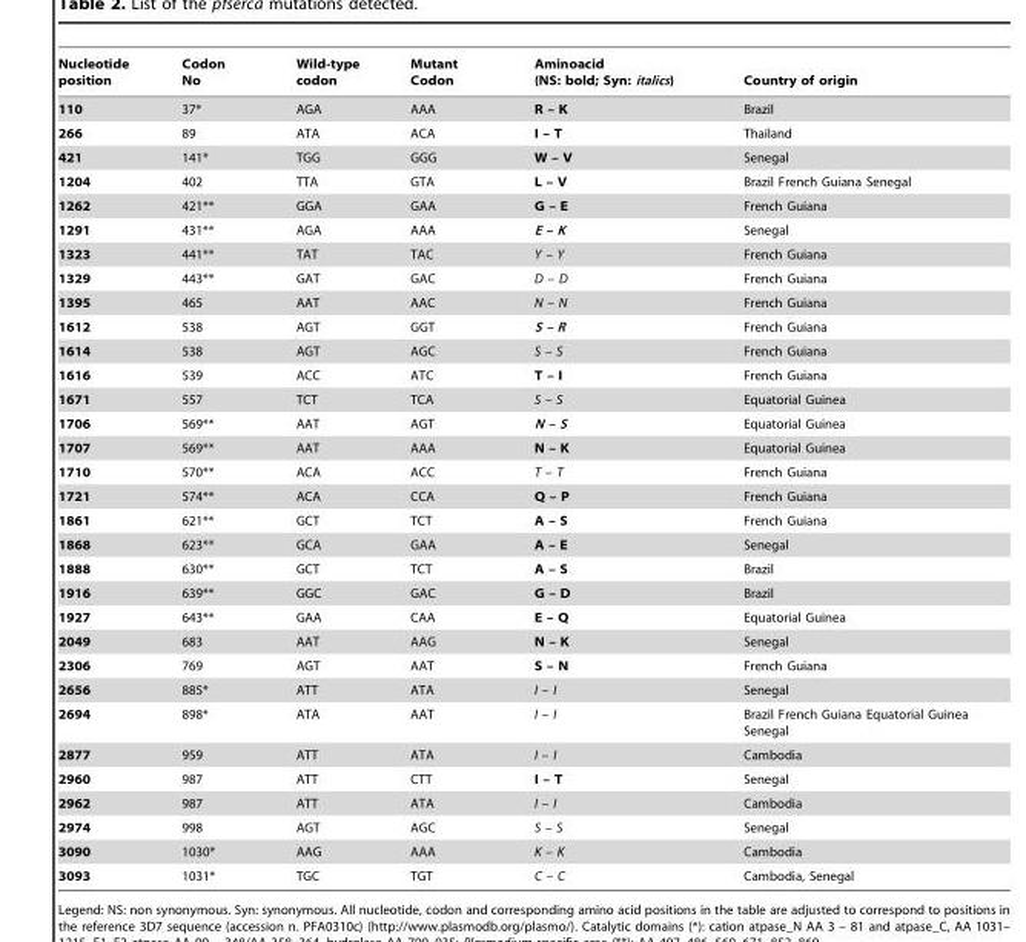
<table><thead><tr><td>Nucleotide position</td><td>Codon No</td><td>Wild-type codon</td><td>Mutant Codon</td><td>Aminoacid (NS: bold; Syn: italics)</td><td>Country of origin</td></tr></thead><tbody><tr><td>110</td><td>37*</td><td>AGA</td><td>AAA</td><td>R – K</td><td>Brazil</td></tr><tr><td>266</td><td>89</td><td>ATA</td><td>ACA</td><td>I – T</td><td>Thailand</td></tr><tr><td>421</td><td>141*</td><td>TGG</td><td>GGG</td><td>W – V</td><td>Senegal</td></tr><tr><td>1204</td><td>402</td><td>TTA</td><td>GTA</td><td>L – V</td><td>Brazil French Guiana Senegal</td></tr><tr><td>1262</td><td>421**</td><td>GGA</td><td>GAA</td><td>G – E</td><td>French Guiana</td></tr><tr><td>1291</td><td>431**</td><td>AGA</td><td>AAA</td><td>E – K</td><td>Senegal</td></tr><tr><td>1323</td><td>441**</td><td>TAT</td><td>TAC</td><td>Y – Y</td><td>French Guiana</td></tr><tr><td>1329</td><td>443**</td><td>GAT</td><td>GAC</td><td>D – D</td><td>French Guiana</td></tr><tr><td>1395</td><td>465</td><td>AAT</td><td>AAC</td><td>N – N</td><td>French Guiana</td></tr><tr><td>1612</td><td>538</td><td>AGT</td><td>GGT</td><td>S – R</td><td>French Guiana</td></tr><tr><td>1614</td><td>538</td><td>AGT</td><td>AGC</td><td>S – S</td><td>French Guiana</td></tr><tr><td>1616</td><td>539</td><td>ACC</td><td>ATC</td><td>T – I</td><td>French Guiana</td></tr><tr><td>1671</td><td>557</td><td>TCT</td><td>TCA</td><td>S – S</td><td>Equatorial Guinea</td></tr><tr><td>1706</td><td>569**</td><td>AAT</td><td>AGT</td><td>N – S</td><td>Equatorial Guinea</td></tr><tr><td>1707</td><td>569**</td><td>AAT</td><td>AAA</td><td>N – K</td><td>Equatorial Guinea</td></tr><tr><td>1710</td><td>570**</td><td>ACA</td><td>ACC</td><td>T – T</td><td>French Guiana</td></tr><tr><td>1721</td><td>574**</td><td>ACA</td><td>CCA</td><td>Q – P</td><td>French Guiana</td></tr><tr><td>1861</td><td>621**</td><td>GCT</td><td>TCT</td><td>A – S</td><td>French Guiana</td></tr><tr><td>1868</td><td>623**</td><td>GCA</td><td>GAA</td><td>A – E</td><td>Senegal</td></tr><tr><td>1888</td><td>630**</td><td>GCT</td><td>TCT</td><td>A – S</td><td>Brazil</td></tr><tr><td>1916</td><td>639**</td><td>GGC</td><td>GAC</td><td>G – D</td><td>Brazil</td></tr><tr><td>1927</td><td>643**</td><td>GAA</td><td>CAA</td><td>E – Q</td><td>Equatorial Guinea</td></tr><tr><td>2049</td><td>683</td><td>AAT</td><td>AAG</td><td>N – K</td><td>Senegal</td></tr><tr><td>2306</td><td>769</td><td>AGT</td><td>AAT</td><td>S – N</td><td>French Guiana</td></tr><tr><td>2656</td><td>885*</td><td>ATT</td><td>ATA</td><td>I – I</td><td>Senegal</td></tr><tr><td>2694</td><td>898*</td><td>ATA</td><td>AAT</td><td>I – I</td><td>Brazil French Guiana Equatorial Guinea Senegal</td></tr><tr><td>2877</td><td>959</td><td>ATT</td><td>ATA</td><td>I – I</td><td>Cambodia</td></tr><tr><td>2960</td><td>987</td><td>ATT</td><td>CTT</td><td>I – T</td><td>Senegal</td></tr><tr><td>2962</td><td>987</td><td>ATT</td><td>ATA</td><td>I – I</td><td>Cambodia</td></tr><tr><td>2974</td><td>998</td><td>AGT</td><td>AGC</td><td>S – S</td><td>Senegal</td></tr><tr><td>3090</td><td>1030*</td><td>AAG</td><td>AAA</td><td>K – K</td><td>Cambodia</td></tr><tr><td>3093</td><td>1031*</td><td>TGC</td><td>TGT</td><td>C – C</td><td>Cambodia, Senegal</td></tr></tbody></table>